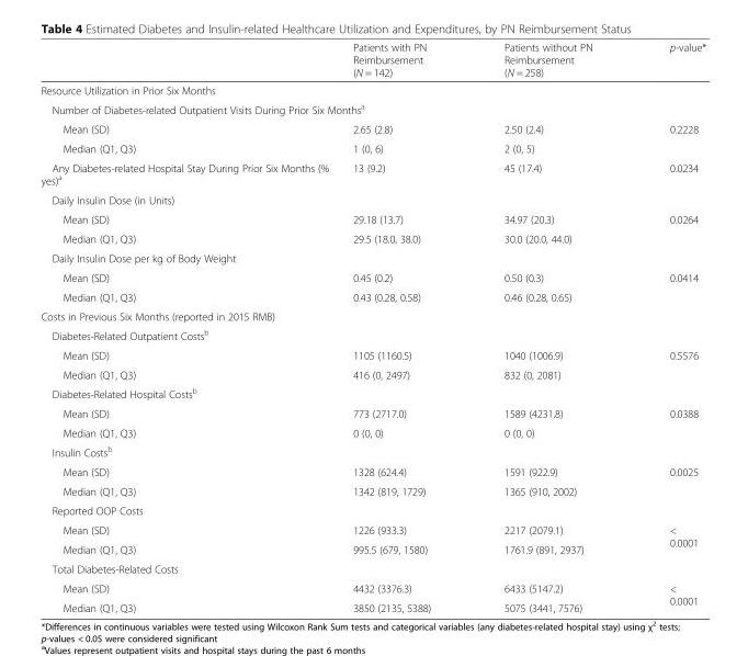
<table><thead><tr><td></td><td>Patients with PN Reimbursement (N = 142)</td><td>Patients without PN Reimbursement (N = 258)</td><td>p-value*</td></tr></thead><tbody><tr><td colspan="4">Resource Utilization in Prior Six Months</td></tr><tr><td colspan="4">Number of Diabetes-related Outpatient Visits During Prior Six Months<sup>a</sup></td></tr><tr><td>Mean (SD)</td><td>2.65 (2.8)</td><td>2.50 (2.4)</td><td rowspan="2">0.2228</td></tr><tr><td>Median (Q1, Q3)</td><td>1 (0, 6)</td><td>2 (0, 5)</td></tr><tr><td>Any Diabetes-related Hospital Stay During Prior Six Months (% yes)<sup>a</sup></td><td>13 (9.2)</td><td>45 (17.4)</td><td>0.0234</td></tr><tr><td colspan="4">Daily Insulin Dose (in Units)</td></tr><tr><td>Mean (SD)</td><td>29.18 (13.7)</td><td>34.97 (20.3)</td><td rowspan="2">0.0264</td></tr><tr><td>Median (Q1, Q3)</td><td>29.5 (18.0, 38.0)</td><td>30.0 (20.0, 44.0)</td></tr><tr><td colspan="4">Daily Insulin Dose per kg of Body Weight</td></tr><tr><td>Mean (SD)</td><td>0.45 (0.2)</td><td>0.50 (0.3)</td><td rowspan="2">0.0414</td></tr><tr><td>Median (Q1, Q3)</td><td>0.43 (0.28, 0.58)</td><td>0.46 (0.28, 0.65)</td></tr><tr><td colspan="4">Costs in Previous Six Months (reported in 2015 RMB)</td></tr><tr><td colspan="4">Diabetes-Related Outpatient Costs<sup>b</sup></td></tr><tr><td>Mean (SD)</td><td>1105 (1160.5)</td><td>1040 (1006.9)</td><td rowspan="2">0.5576</td></tr><tr><td>Median (Q1, Q3)</td><td>416 (0, 2497)</td><td>832 (0, 2081)</td></tr><tr><td colspan="4">Diabetes-Related Hospital Costs<sup>b</sup></td></tr><tr><td>Mean (SD)</td><td>773 (2717.0)</td><td>1589 (4231.8)</td><td rowspan="2">0.0388</td></tr><tr><td>Median (Q1, Q3)</td><td>0 (0, 0)</td><td>0 (0, 0)</td></tr><tr><td colspan="4">Insulin Costs<sup>b</sup></td></tr><tr><td>Mean (SD)</td><td>1328 (624.4)</td><td>1591 (922.9)</td><td rowspan="2">0.0025</td></tr><tr><td>Median (Q1, Q3)</td><td>1342 (819, 1729)</td><td>1365 (910, 2002)</td></tr><tr><td colspan="4">Reported OOP Costs</td></tr><tr><td>Mean (SD)</td><td>1226 (933.3)</td><td>2217 (2079.1)</td><td rowspan="2">&lt; 0.0001</td></tr><tr><td>Median (Q1, Q3)</td><td>995.5 (679, 1580)</td><td>1761.9 (891, 2937)</td></tr><tr><td colspan="4">Total Diabetes-Related Costs</td></tr><tr><td>Mean (SD)</td><td>4432 (3376.3)</td><td>6433 (5147.2)</td><td rowspan="2">&lt; 0.0001</td></tr><tr><td>Median (Q1, Q3)</td><td>3850 (2135, 5388)</td><td>5075 (3441, 7576)</td></tr></tbody></table>